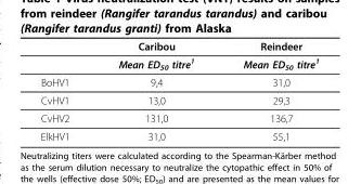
<table><thead><tr><td></td><td>Caribou</td><td>Reindeer</td></tr></thead><tbody><tr><td></td><td>Mean ED<sub>50</sub> titre<sup>1</sup></td><td>Mean ED<sub>50</sub> titre<sup>1</sup></td></tr><tr><td>BoHV1</td><td>9,4</td><td>31,0</td></tr><tr><td>CvHV1</td><td>13,0</td><td>29,3</td></tr><tr><td>CvHV2</td><td>131,0</td><td>136,7</td></tr><tr><td>ElkHV1</td><td>31,0</td><td>55,1</td></tr></tbody></table>